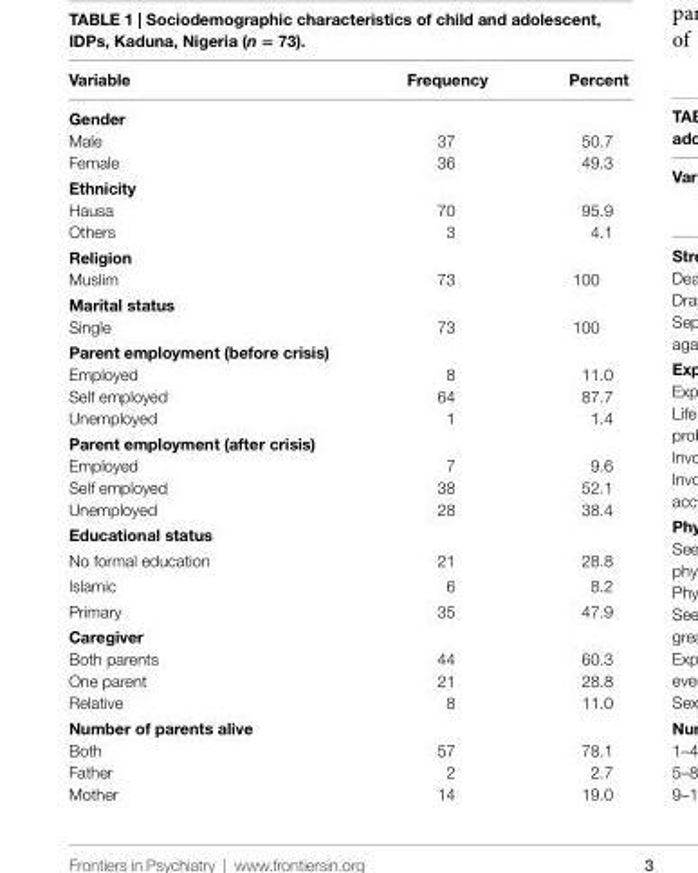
<table><thead><tr><td>Variable</td><td>Frequency</td><td>Percent</td></tr></thead><tbody><tr><td colspan="3">gender</td></tr><tr><td>Male</td><td>37</td><td>50.7</td></tr><tr><td>Female</td><td>36</td><td>49.3</td></tr><tr><td colspan="3">ethnicity</td></tr><tr><td>Hausa</td><td>70</td><td>95.9</td></tr><tr><td>Others</td><td>3</td><td>4.1</td></tr><tr><td colspan="3">religion</td></tr><tr><td>Muslim</td><td>73</td><td>100</td></tr><tr><td colspan="3">Marital status</td></tr><tr><td>Single</td><td>73</td><td>100</td></tr><tr><td colspan="3">Parent employment (before crisis)</td></tr><tr><td>Employed</td><td>8</td><td>11.0</td></tr><tr><td>Self employed</td><td>64</td><td>87.7</td></tr><tr><td>Unemployed</td><td>1</td><td>1.4</td></tr><tr><td colspan="3">Parent employment (after crisis)</td></tr><tr><td>Employed</td><td>7</td><td>9.6</td></tr><tr><td>Self employed</td><td>38</td><td>52.1</td></tr><tr><td>Unemployed</td><td>28</td><td>38.4</td></tr><tr><td colspan="3">educational status</td></tr><tr><td>No formal education</td><td>21</td><td>28.8</td></tr><tr><td>Islamic</td><td>6</td><td>8.2</td></tr><tr><td>Primary</td><td>35</td><td>47.9</td></tr><tr><td colspan="3">caregiver</td></tr><tr><td>Both parents</td><td>44</td><td>60.3</td></tr><tr><td>One parent</td><td>21</td><td>28.8</td></tr><tr><td>Relative</td><td>8</td><td>11.0</td></tr><tr><td colspan="3">number of parents alive</td></tr><tr><td>Both</td><td>57</td><td>78.1</td></tr><tr><td>Father</td><td>2</td><td>2.7</td></tr><tr><td>Mother</td><td>14</td><td>19.0</td></tr></tbody></table>